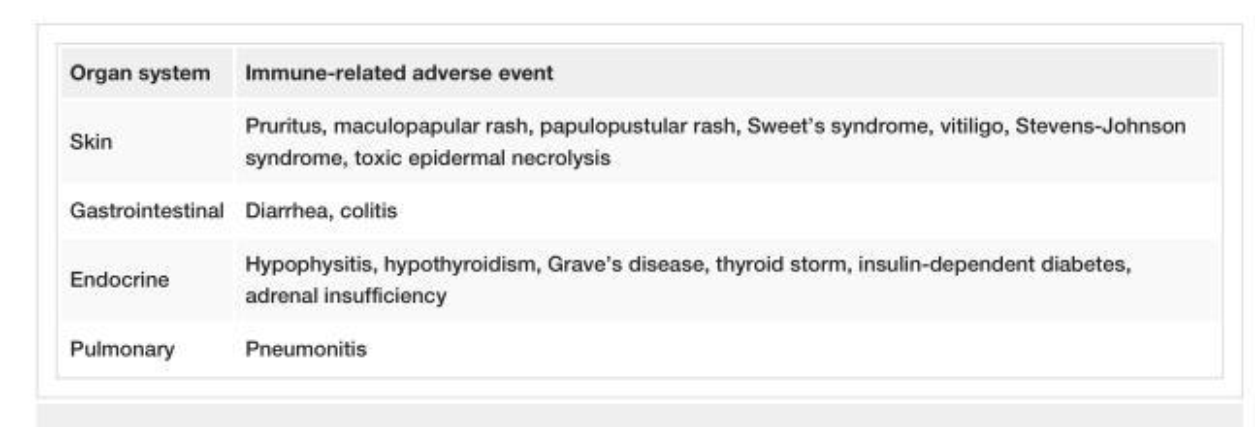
<table><tbody><tr><td>Organ system</td><td>Immune-related adverse event</td></tr><tr><td>Skin</td><td>Pruritus, maculopapular rash, papulopustular rash, Sweet’s syndrome, vitiligo, Stevens-Johnson syndrome, toxic epidermal necrolysis</td></tr><tr><td>Gastrointestinal</td><td>Diarrhea, colitis</td></tr><tr><td>Endocrine</td><td>Hypophysitis, hypothyroidism, Grave’s disease, thyroid storm, insulin-dependent diabetes, adrenal insufficiency</td></tr><tr><td>Pulmonary</td><td>Pneumonitis</td></tr></tbody></table>